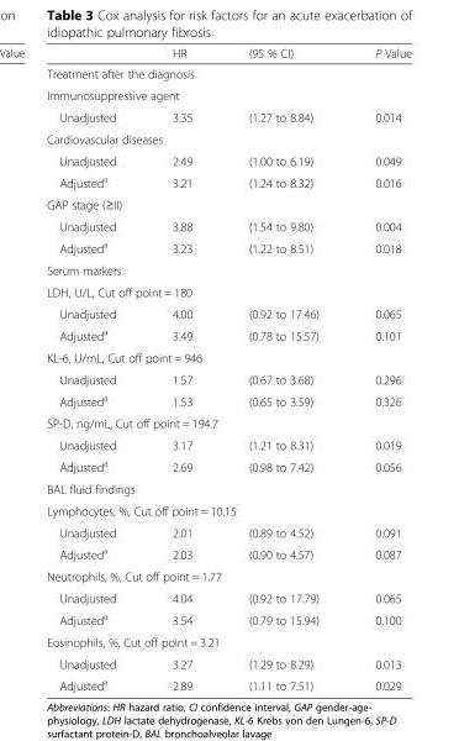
<table><thead><tr><td></td><td>HR</td><td>(95 % CI)</td><td>P Value</td></tr></thead><tbody><tr><td colspan="4">Treatment after the diagnosis</td></tr><tr><td colspan="4">Immunosuppressive agent</td></tr><tr><td>Unadjusted</td><td>3.35</td><td>(1.27 to 8.84)</td><td>0.014</td></tr><tr><td colspan="4">Cardiovascular diseases</td></tr><tr><td>Unadjusted</td><td>2.49</td><td>(1.00 to 6.19)</td><td>0.049</td></tr><tr><td>Adjusted<sup>a</sup></td><td>3.21</td><td>(1.24 to 8.32)</td><td>0.016</td></tr><tr><td colspan="4">GAP stage (≥II)</td></tr><tr><td>Unadjusted</td><td>3.88</td><td>(1.54 to 9.80)</td><td>0.004</td></tr><tr><td>Adjusted<sup>a</sup></td><td>3.23</td><td>(1.22 to 8.51)</td><td>0.018</td></tr><tr><td colspan="4">Serum markers</td></tr><tr><td colspan="4">LDH, U/L, Cut off point = 180</td></tr><tr><td>Unadjusted</td><td>4.00</td><td>(0.92 to 17.46)</td><td>0.065</td></tr><tr><td>Adjusted<sup>a</sup></td><td>3.49</td><td>(0.78 to 15.57)</td><td>0.101</td></tr><tr><td colspan="4">KL-6, U/mL, Cut off point = 946</td></tr><tr><td>Unadjusted</td><td>1.57</td><td>(0.67 to 3.68)</td><td>0.296</td></tr><tr><td>Adjusted<sup>a</sup></td><td>1.53</td><td>(0.65 to 3.59)</td><td>0.326</td></tr><tr><td colspan="4">SP-D, ng/mL, Cut off point = 194.7</td></tr><tr><td>Unadjusted</td><td>3.17</td><td>(1.21 to 8.31)</td><td>0.019</td></tr><tr><td>Adjusted<sup>a</sup></td><td>2.69</td><td>(0.98 to 7.42)</td><td>0.056</td></tr><tr><td colspan="4">BAL fluid findings</td></tr><tr><td colspan="4">Lymphocytes, %, Cut off point = 10.15</td></tr><tr><td>Unadjusted</td><td>2.01</td><td>(0.89 to 4.52)</td><td>0.091</td></tr><tr><td>Adjusted<sup>a</sup></td><td>2.03</td><td>(0.90 to 4.57)</td><td>0.087</td></tr><tr><td colspan="4">Neutrophils, %, Cut off point = 1.77</td></tr><tr><td>Unadjusted</td><td>4.04</td><td>(0.92 to 17.79)</td><td>0.065</td></tr><tr><td>Adjusted<sup>a</sup></td><td>3.54</td><td>(0.79 to 15.94)</td><td>0.100</td></tr><tr><td colspan="4">Eosinophils, %, Cut off point = 3.21</td></tr><tr><td>Unadjusted</td><td>3.27</td><td>(1.29 to 8.29)</td><td>0.013</td></tr><tr><td>Adjusted<sup>a</sup></td><td>2.89</td><td>(1.11 to 7.51)</td><td>0.029</td></tr></tbody></table>